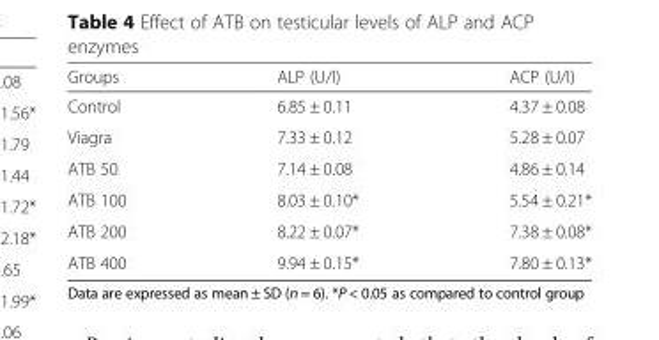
<table><thead><tr><td>Groups</td><td>ALP (U/I)</td><td>ACP (U/I)</td></tr></thead><tbody><tr><td>Control</td><td>6.85 ± 0.11</td><td>4.37 ± 0.08</td></tr><tr><td>Viagra</td><td>7.33 ± 0.12</td><td>5.28 ± 0.07</td></tr><tr><td>ATB 50</td><td>7.14 ± 0.08</td><td>4.86 ± 0.14</td></tr><tr><td>ATB 100</td><td>8.03 ± 0.10*</td><td>5.54 ± 0.21*</td></tr><tr><td>ATB 200</td><td>8.22 ± 0.07*</td><td>7.38 ± 0.08*</td></tr><tr><td>ATB 400</td><td>9.94 ± 0.15*</td><td>7.80 ± 0.13*</td></tr></tbody></table>